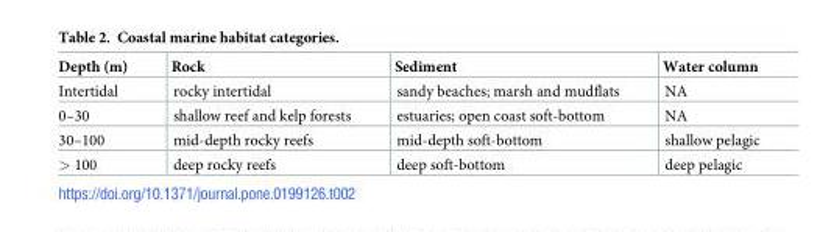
<table><thead><tr><td>Depth (m)</td><td>Rock</td><td>Sediment</td><td>Water column</td></tr></thead><tbody><tr><td>Intertidal</td><td>rocky intertidal</td><td>sandy beaches; marsh and mudflats</td><td>NA</td></tr><tr><td>0–30</td><td>shallow reef and kelp forests</td><td>estuaries; open coast soft-bottom</td><td>NA</td></tr><tr><td>30–100</td><td>mid-depth rocky reefs</td><td>mid-depth soft-bottom</td><td>shallow pelagic</td></tr><tr><td>&gt; 100</td><td>deep rocky reefs</td><td>deep soft-bottom</td><td>deep pelagic</td></tr></tbody></table>